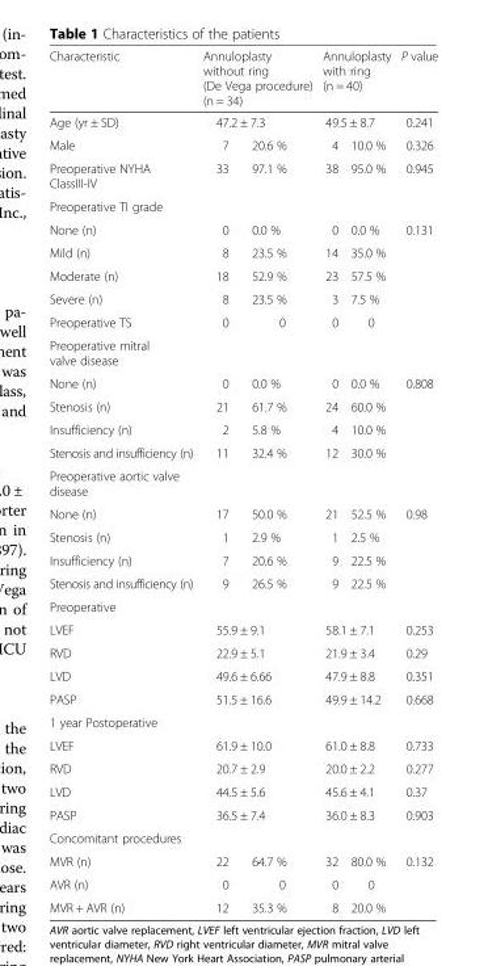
<table><thead><tr><td rowspan="3">Characteristic Age (yr ± SD) Male</td><td rowspan="2" colspan="2">Annuloplasty without ring (De Vega procedure) (n = 34) 47.2 ± 7.3</td><td rowspan="2" colspan="2">Annuloplasty with ring (n = 40) 49.5 ± 8.7</td><td rowspan="3">P value 0.241 0.326</td></tr><tr></tr><tr><td>7</td><td>20.6 %</td><td>4</td><td>10.0 %</td></tr></thead><tbody><tr><td>Preoperative NYHA ClassIII-IV</td><td>33</td><td>97.1 %</td><td>38</td><td>95.0 %</td><td>0.945</td></tr><tr><td colspan="6">Preoperative TI grade</td></tr><tr><td>None (n)</td><td>0</td><td>0.0 %</td><td>0</td><td>0.0 %</td><td rowspan="4">0.131</td></tr><tr><td>Mild (n)</td><td>8</td><td>23.5 %</td><td>14</td><td>35.0 %</td></tr><tr><td>Moderate (n)</td><td>18</td><td>52.9 %</td><td>23</td><td>57.5 %</td></tr><tr><td>Severe (n)</td><td>8</td><td>23.5 %</td><td>3</td><td>7.5 %</td></tr><tr><td>Preoperative TS</td><td>0</td><td>0</td><td>0</td><td>0</td><td></td></tr><tr><td colspan="6">Preoperative mitral valve disease</td></tr><tr><td>None (n)</td><td>0</td><td>0.0 %</td><td>0</td><td>0.0 %</td><td rowspan="4">0.808</td></tr><tr><td>Stenosis (n)</td><td>21</td><td>61.7 %</td><td>24</td><td>60.0 %</td></tr><tr><td>Insufficiency (n)</td><td>2</td><td>5.8 %</td><td>4</td><td>10.0 %</td></tr><tr><td>Stenosis and insufficiency (n)</td><td>11</td><td>32.4 %</td><td>12</td><td>30.0 %</td></tr><tr><td colspan="6">Preoperative aortic valve disease</td></tr><tr><td>None (n)</td><td>17</td><td>50.0 %</td><td>21</td><td>52.5 %</td><td rowspan="4">0.98</td></tr><tr><td>Stenosis (n)</td><td>1</td><td>2.9 %</td><td>1</td><td>2.5 %</td></tr><tr><td>Insufficiency (n)</td><td>7</td><td>20.6 %</td><td>9</td><td>22.5 %</td></tr><tr><td>Stenosis and insufficiency (n)</td><td>9</td><td>26.5 %</td><td>9</td><td>22.5 %</td></tr><tr><td colspan="6">Preoperative</td></tr><tr><td>LVEF</td><td colspan="2">55.9 ± 9.1</td><td colspan="2">58.1 ± 7.1</td><td>0.253</td></tr><tr><td>RVD</td><td colspan="2">22.9 ± 5.1</td><td colspan="2">21.9 ± 3.4</td><td>0.29</td></tr><tr><td>LVD</td><td colspan="2">49.6 ± 6.66</td><td colspan="2">47.9 ± 8.8</td><td>0.351</td></tr><tr><td>PASP</td><td colspan="2">51.5 ± 16.6</td><td colspan="2">49.9 ± 14.2</td><td>0.668</td></tr><tr><td colspan="6">1 year Postoperative</td></tr><tr><td>LVEF</td><td colspan="2">61.9 ± 10.0</td><td colspan="2">61.0 ± 8.8</td><td>0.733</td></tr><tr><td>RVD</td><td colspan="2">20.7 ± 2.9</td><td colspan="2">20.0 ± 2.2</td><td>0.277</td></tr><tr><td>LVD</td><td colspan="2">44.5 ± 5.6</td><td colspan="2">45.6 ± 4.1</td><td>0.37</td></tr><tr><td>PASP</td><td colspan="2">36.5 ± 7.4</td><td colspan="2">36.0 ± 8.3</td><td>0.903</td></tr><tr><td colspan="6">Concomitant procedures</td></tr><tr><td>MVR (n)</td><td>22</td><td>64.7 %</td><td>32</td><td>80.0 %</td><td rowspan="3">0.132</td></tr><tr><td>AVR (n)</td><td>0</td><td>0</td><td>0</td><td>0</td></tr><tr><td>MVR + AVR (n)</td><td>12</td><td>35.3 %</td><td>8</td><td>20.0 %</td></tr></tbody></table>